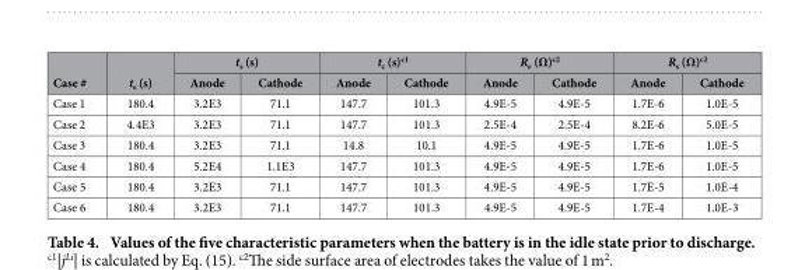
<table><thead><tr><td rowspan="2">Case #</td><td rowspan="2">t<sub>e</sub> (s)</td><td colspan="2">t<sub>s</sub> (s)</td><td colspan="2">t<sub>c</sub> (s)c1</td><td colspan="2">R<sub>e</sub> (Ω)c2</td><td colspan="2">R<sub>s</sub> (Ω)c2</td></tr><tr><td>Anode</td><td>Cathode</td><td>Anode</td><td>Cathode</td><td>Anode</td><td>Cathode</td><td>Anode</td><td>Cathode</td></tr></thead><tbody><tr><td>Case 1</td><td>180.4</td><td>3.2E3</td><td>71.1</td><td>147.7</td><td>101.3</td><td>4.9E-5</td><td>4.9E-5</td><td>1.7E-6</td><td>1.0E-5</td></tr><tr><td>Case 2</td><td>4.4E3</td><td>3.2E3</td><td>71.1</td><td>147.7</td><td>101.3</td><td>2.5E-4</td><td>2.5E-4</td><td>8.2E-6</td><td>5.0E-5</td></tr><tr><td>Case 3</td><td>180.4</td><td>3.2E3</td><td>71.1</td><td>14.8</td><td>10.1</td><td>4.9E-5</td><td>4.9E-5</td><td>1.7E-6</td><td>1.0E-5</td></tr><tr><td>Case 4</td><td>180.4</td><td>5.2E4</td><td>1.1E3</td><td>147.7</td><td>101.3</td><td>4.9E-5</td><td>4.9E-5</td><td>1.7E-6</td><td>1.0E-5</td></tr><tr><td>Case 5</td><td>180.4</td><td>3.2E3</td><td>71.1</td><td>147.7</td><td>101.3</td><td>4.9E-5</td><td>4.9E-5</td><td>1.7E-5</td><td>1.0E-4</td></tr><tr><td>Case 6</td><td>180.4</td><td>3.2E3</td><td>71.1</td><td>147.7</td><td>101.3</td><td>4.9E-5</td><td>4.9E-5</td><td>1.7E-4</td><td>1.0E-3</td></tr></tbody></table>